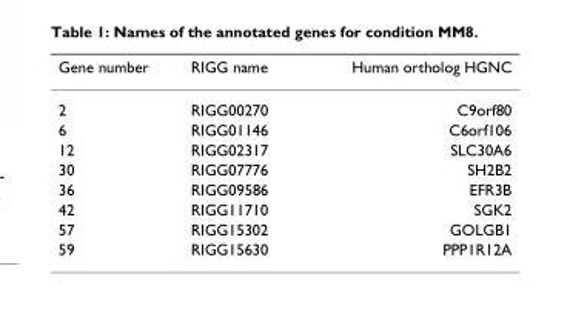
<table><thead><tr><td>Gene number</td><td>RIGG name</td><td>Human ortholog HGNC</td></tr></thead><tbody><tr><td>2</td><td>RIGG00270</td><td>C9orf80</td></tr><tr><td>6</td><td>RIGG01146</td><td>C6orf106</td></tr><tr><td>12</td><td>RIGG02317</td><td>SLC30A6</td></tr><tr><td>30</td><td>RIGG07776</td><td>SH2B2</td></tr><tr><td>36</td><td>RIGG09586</td><td>EFR3B</td></tr><tr><td>42</td><td>RIGG11710</td><td>SGK2</td></tr><tr><td>57</td><td>RIGG15302</td><td>GOLGB1</td></tr><tr><td>59</td><td>RIGG15630</td><td>PPP1R12A</td></tr></tbody></table>